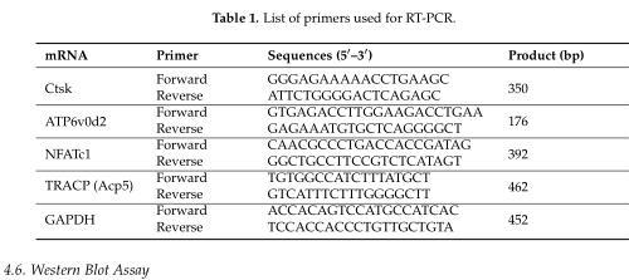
<table><thead><tr><td>mRNA</td><td>Primer</td><td>Sequences (5ʹ–3ʹ)</td><td>Product (bp)</td></tr></thead><tbody><tr><td rowspan="2">Ctsk</td><td>Forward</td><td>GGGAGAAAAACCTGAAGC</td><td rowspan="2">350</td></tr><tr><td>Reverse</td><td>ATTCTGGGGACTCAGAGC</td></tr><tr><td rowspan="2">ATP6v0d2</td><td>Forward</td><td>GTGAGACCTTGGAAGACCTGAA</td><td rowspan="2">176</td></tr><tr><td>Reverse</td><td>GAGAAATGTGCTCAGGGGCT</td></tr><tr><td rowspan="2">NFATc1</td><td>Forward</td><td>CAACGCCCTGACCACCGATAG</td><td rowspan="2">392</td></tr><tr><td>Reverse</td><td>GGCTGCCTTCCGTCTCATAGT</td></tr><tr><td rowspan="2">TRACP (Acp5)</td><td>Forward</td><td>TGTGGCCATCTTTATGCT</td><td rowspan="2">462</td></tr><tr><td>Reverse</td><td>GTCATTTCTTTGGGGCTT</td></tr><tr><td rowspan="2">GAPDH</td><td>Forward</td><td>ACCACAGTCCATGCCATCAC</td><td rowspan="2">452</td></tr><tr><td>Reverse</td><td>TCCACCACCCTGTTGCTGTA</td></tr></tbody></table>